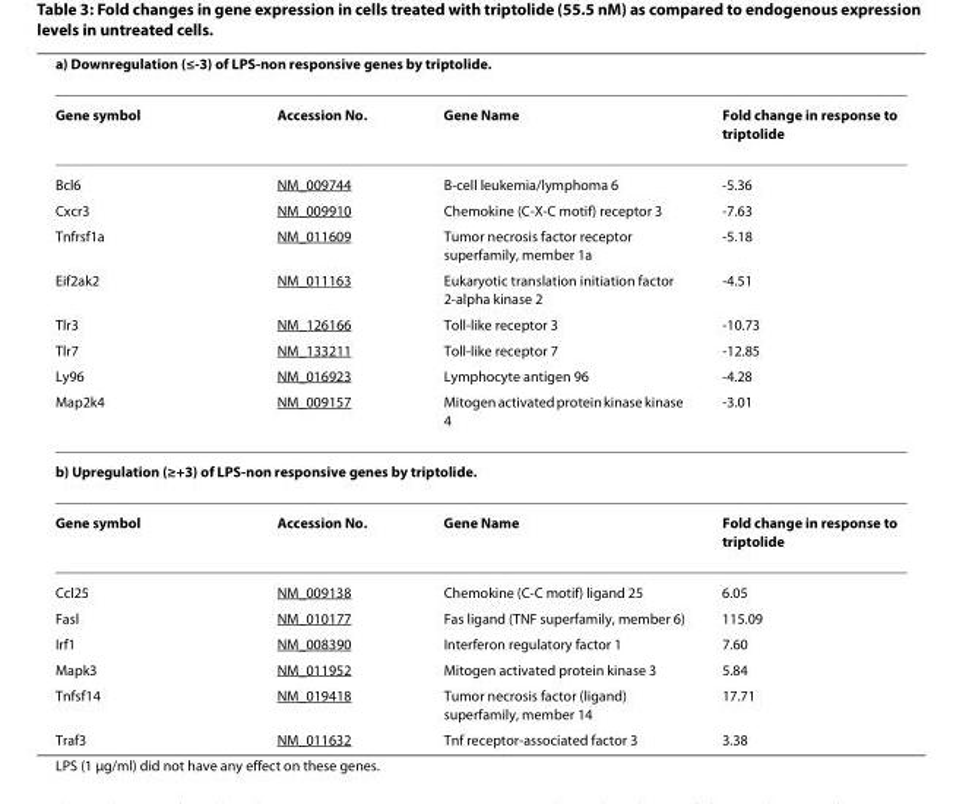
<table><thead><tr><td colspan="4">a) Downregulation (≤-3) of LPS-non responsive genes by triptolide.</td></tr><tr><td>Gene symbol</td><td>Accession No.</td><td>Gene Name</td><td>Fold change in response to triptolide</td></tr></thead><tbody><tr><td>Bcl6</td><td>NM_009744</td><td>B-cell leukemia/lymphoma 6</td><td>-5.36</td></tr><tr><td>Cxcr3</td><td>NM_009910</td><td>Chemokine (C-X-C motif) receptor 3</td><td>-7.63</td></tr><tr><td>Tnfrsf1a</td><td>NM_011609</td><td>Tumor necrosis factor receptor superfamily, member 1a</td><td>-5.18</td></tr><tr><td>Eif2ak2</td><td>NM_011163</td><td>Eukaryotic translation initiation factor 2-alpha kinase 2</td><td>-4.51</td></tr><tr><td>Tlr3</td><td>NM_126166</td><td>Toll-like receptor 3</td><td>-10.73</td></tr><tr><td>Tlr7</td><td>NM_133211</td><td>Toll-like receptor 7</td><td>-12.85</td></tr><tr><td>Ly96</td><td>NM_016923</td><td>Lymphocyte antigen 96</td><td>-4.28</td></tr><tr><td>Map2k4</td><td>NM_009157</td><td>Mitogen activated protein kinase kinase 4</td><td>-3.01</td></tr><tr><td colspan="4">b) Upregulation (≥+3) of LPS-non responsive genes by triptolide.</td></tr><tr><td>Gene symbol</td><td>Accession No.</td><td>Gene Name</td><td>Fold change in response to triptolide</td></tr><tr><td>Ccl25</td><td>NM_009138</td><td>Chemokine (C-C motif) ligand 25</td><td>6.05</td></tr><tr><td>Fasl</td><td>NM_010177</td><td>Fas ligand (TNF superfamily, member 6)</td><td>115.09</td></tr><tr><td>Irf1</td><td>NM_008390</td><td>Interferon regulatory factor 1</td><td>7.60</td></tr><tr><td>Mapk3</td><td>NM_011952</td><td>Mitogen activated protein kinase 3</td><td>5.84</td></tr><tr><td>Tnfsf14</td><td>NM_019418</td><td>Tumor necrosis factor (ligand) superfamily, member 14</td><td>17.71</td></tr><tr><td>Traf3</td><td>NM_011632</td><td>Tnf receptor-associated factor 3</td><td>3.38</td></tr></tbody></table>